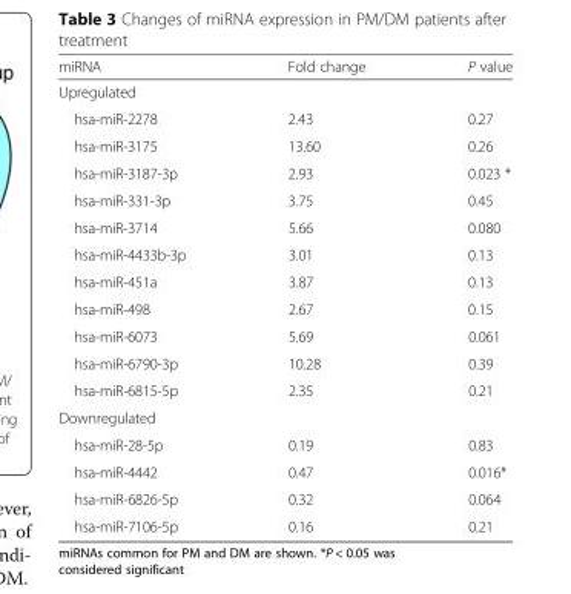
<table><thead><tr><td>miRNA</td><td>Fold change</td><td>P value</td></tr></thead><tbody><tr><td colspan="3">Upregulated</td></tr><tr><td>hsa-miR-2278</td><td>2.43</td><td>0.27</td></tr><tr><td>hsa-miR-3175</td><td>13.60</td><td>0.26</td></tr><tr><td>hsa-miR-3187-3p</td><td>2.93</td><td>0.023 *</td></tr><tr><td>hsa-miR-331-3p</td><td>3.75</td><td>0.45</td></tr><tr><td>hsa-miR-3714</td><td>5.66</td><td>0.080</td></tr><tr><td>hsa-miR-4433b-3p</td><td>3.01</td><td>0.13</td></tr><tr><td>hsa-miR-451a</td><td>3.87</td><td>0.13</td></tr><tr><td>hsa-miR-498</td><td>2.67</td><td>0.15</td></tr><tr><td>hsa-miR-6073</td><td>5.69</td><td>0.061</td></tr><tr><td>hsa-miR-6790-3p</td><td>10.28</td><td>0.39</td></tr><tr><td>hsa-miR-6815-5p</td><td>2.35</td><td>0.21</td></tr><tr><td colspan="3">Downregulated</td></tr><tr><td>hsa-miR-28-5p</td><td>0.19</td><td>0.83</td></tr><tr><td>hsa-miR-4442</td><td>0.47</td><td>0.016*</td></tr><tr><td>hsa-miR-6826-5p</td><td>0.32</td><td>0.064</td></tr><tr><td>hsa-miR-7106-5p</td><td>0.16</td><td>0.21</td></tr></tbody></table>